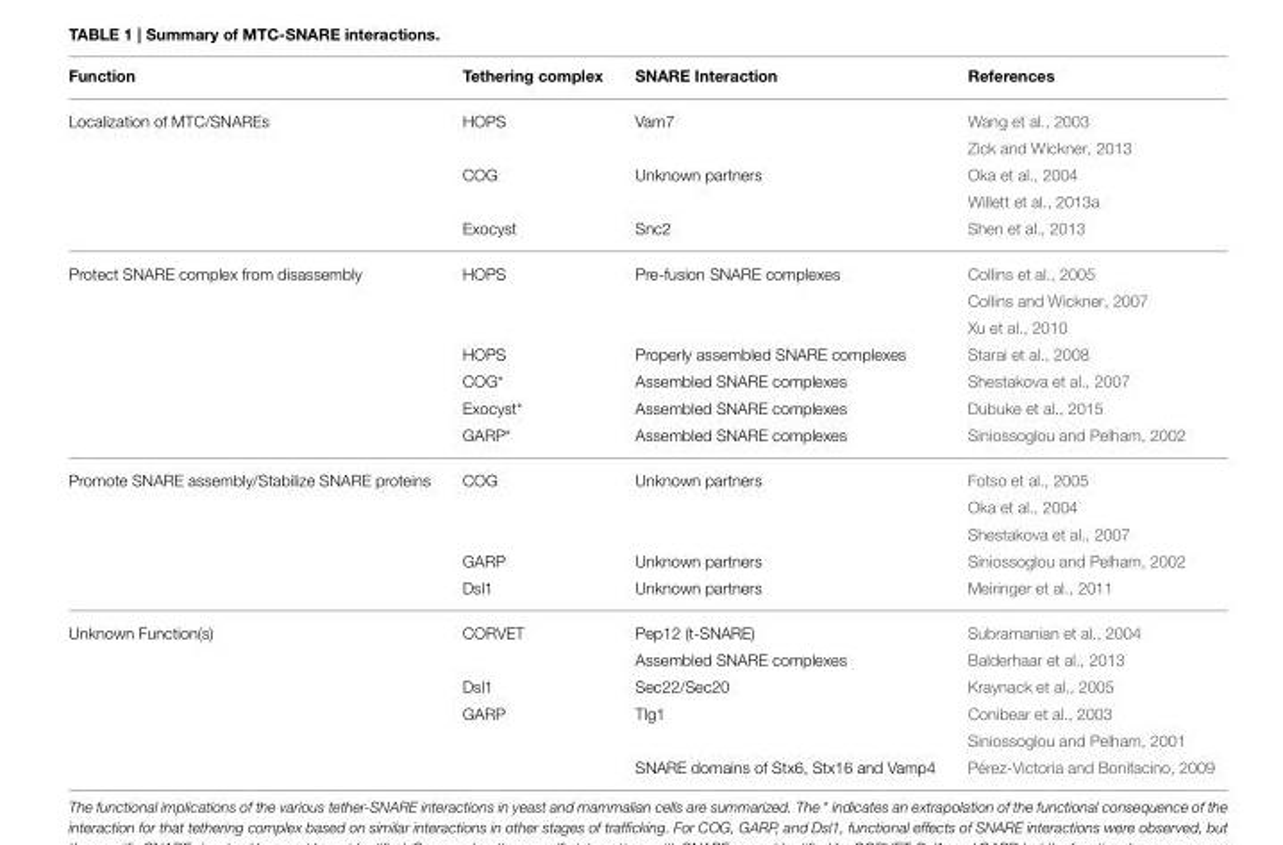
<table><thead><tr><td>Function</td><td>Tethering complex</td><td>SNARE Interaction</td><td>References</td></tr></thead><tbody><tr><td rowspan="5">Localization of MTC/SNAREs</td><td>HOPS</td><td>Vam7</td><td>Wang et al., 2003</td></tr><tr><td></td><td></td><td>Zick and Wickner, 2013</td></tr><tr><td>COG</td><td>Unknown partners</td><td>Oka et al., 2004</td></tr><tr><td></td><td></td><td>Willett et al., 2013a</td></tr><tr><td>Exocyst</td><td>Snc2</td><td>Shen et al., 2013</td></tr><tr><td rowspan="7">Protect SNARE complex from disassembly</td><td>HOPS</td><td>Pre-fusion SNARE complexes</td><td>Collins et al., 2005</td></tr><tr><td></td><td></td><td>Collins and Wickner, 2007</td></tr><tr><td></td><td></td><td>Xu et al., 2010</td></tr><tr><td>HOPS</td><td>Properly assembled SNARE complexes</td><td>Starai et al., 2008</td></tr><tr><td>COG*</td><td>Assembled SNARE complexes</td><td>Shestakova et al., 2007</td></tr><tr><td>Exocyst*</td><td>Assembled SNARE complexes</td><td>Dubuke et al., 2015</td></tr><tr><td>GARP*</td><td>Assembled SNARE complexes</td><td>Siniossoglou and Pelham, 2002</td></tr><tr><td rowspan="5">Promote SNARE assembly/Stabilize SNARE proteins</td><td>COG</td><td>Unknown partners</td><td>Fotso et al., 2005</td></tr><tr><td></td><td></td><td>Oka et al., 2004</td></tr><tr><td></td><td></td><td>Shestakova et al., 2007</td></tr><tr><td>GARP</td><td>Unknown partners</td><td>Siniossoglou and Pelham, 2002</td></tr><tr><td>Dsl1</td><td>Unknown partners</td><td>Meiringer et al., 2011</td></tr><tr><td rowspan="6">Unknown Function(s)</td><td>CORVET</td><td>Pep12 (t-SNARE)</td><td>Subramanian et al., 2004</td></tr><tr><td></td><td>Assembled SNARE complexes</td><td>Balderhaar et al., 2013</td></tr><tr><td>Dsl1</td><td>Sec22/Sec20</td><td>Kraynack et al., 2005</td></tr><tr><td>GARP</td><td>Tlg1</td><td>Conibear et al., 2003</td></tr><tr><td></td><td></td><td>Siniossoglou and Pelham, 2001</td></tr><tr><td></td><td>SNARE domains of Stx6, Stx16 and Vamp4</td><td>Pérez-Victoria and Bonifacino, 2009</td></tr></tbody></table>